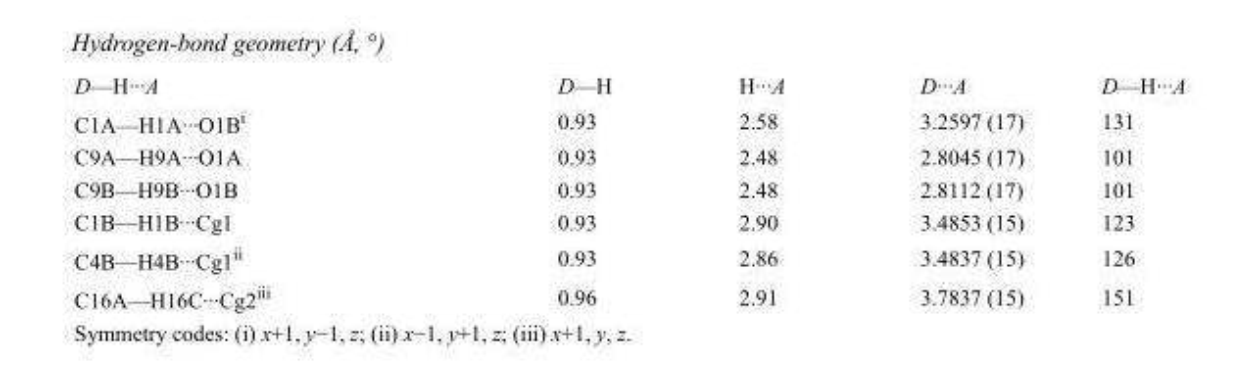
<table><tbody><tr><td>D—H···A</td><td>D—H</td><td>H···A</td><td>D···A</td><td>D—H···A</td></tr><tr><td>C1A—H1A···O1B<sup>i</sup></td><td>0.93</td><td>2.58</td><td>3.2597 (17)</td><td>131</td></tr><tr><td>C9A—H9A···O1A</td><td>0.93</td><td>2.48</td><td>2.8045 (17)</td><td>101</td></tr><tr><td>C9B—H9B···O1B</td><td>0.93</td><td>2.48</td><td>2.8112 (17)</td><td>101</td></tr><tr><td>C1B—H1B···Cg1</td><td>0.93</td><td>2.90</td><td>3.4853 (15)</td><td>123</td></tr><tr><td>C4B—H4B···Cg1<sup>ii</sup></td><td>0.93</td><td>2.86</td><td>3.4837 (15)</td><td>126</td></tr><tr><td>C16A—H16C···Cg2<sup>iii</sup></td><td>0.96</td><td>2.91</td><td>3.7837 (15)</td><td>151</td></tr></tbody></table>